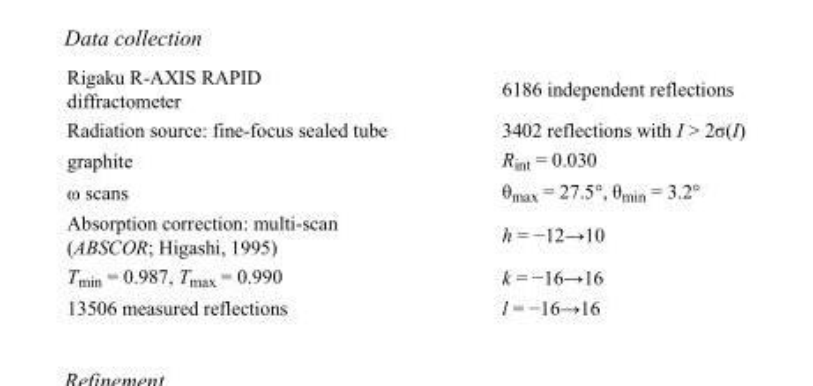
<table><tbody><tr><td>Rigaku R-AXIS RAPID diffractometer</td><td>6186 independent reflections</td></tr><tr><td>Radiation source: fine-focus sealed tube</td><td>3402 reflections with I &gt; 2σ(I)</td></tr><tr><td>graphite</td><td>R<sub>int</sub> = 0.030</td></tr><tr><td>ω scans</td><td>θ<sub>max</sub> = 27.5°, θ<sub>min</sub> = 3.2°</td></tr><tr><td>Absorption correction: multi-scan (ABSCOR; Higashi, 1995)</td><td>h = −12→10</td></tr><tr><td>T<sub>min</sub> = 0.987, T<sub>max</sub> = 0.990</td><td>k = −16→16</td></tr><tr><td>13506 measured reflections</td><td>l = −16→16</td></tr></tbody></table>